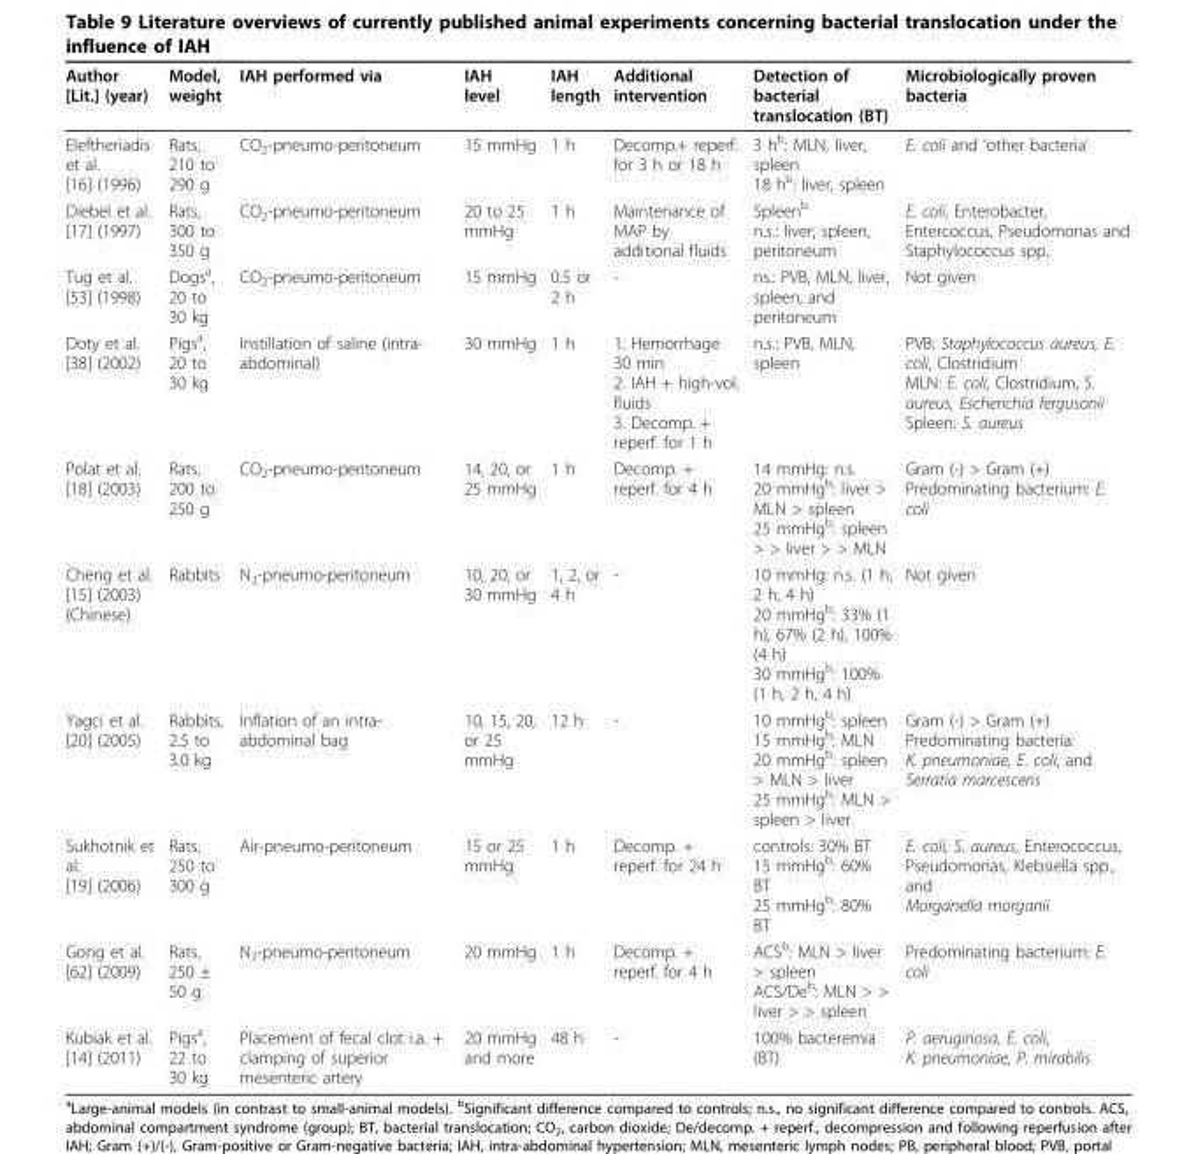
<table><thead><tr><td>Author [Lit.] (year)</td><td>Model, weight</td><td>IAH performed via</td><td>IAH level</td><td>IAH length</td><td>Additional intervention</td><td>Detection of bacterial translocation (BT)</td><td>Microbiologically proven bacteria</td></tr></thead><tbody><tr><td>Eleftheriadis et al. [16] (1996)</td><td>Rats, 210 to 290 g</td><td>CO<sub>2</sub>-pneumo-peritoneum</td><td>15 mmHg</td><td>1 h</td><td>Decomp.+ reperf. for 3 h or 18 h</td><td>3 h<sup>b</sup>: MLN, liver, spleen 18 h<sup>b</sup>: liver, spleen</td><td>E. coli and ‘other bacteria’</td></tr><tr><td>Diebel et al. [17] (1997)</td><td>Rats, 300 to 350 g</td><td>CO<sub>2</sub>-pneumo-peritoneum</td><td>20 to 25 mmHg</td><td>1 h</td><td>Maintenance of MAP by additional fluids</td><td>Spleen<sup>b</sup> n.s.: liver, spleen, peritoneum</td><td>E. coli, Enterobacter, Entercoccus, Pseudomonas and Staphylococcus spp.</td></tr><tr><td>Tug et al. [53] (1998)</td><td>Dogs<sup>a</sup>, 20 to 30 kg</td><td>CO<sub>2</sub>-pneumo-peritoneum</td><td>15 mmHg</td><td>0.5 or 2 h</td><td>-</td><td>ns.: PVB, MLN, liver, spleen, and peritoneum</td><td>Not given</td></tr><tr><td>Doty et al. [38] (2002)</td><td>Pigs<sup>a</sup>, 20 to 30 kg</td><td>Instillation of saline (intra- abdominal)</td><td>30 mmHg</td><td>1 h</td><td>1. Hemorrhage 30 min 2. IAH + high-vol. fluids 3. Decomp. + reperf. for 1 h</td><td>n.s.: PVB, MLN, spleen</td><td>PVB: Staphylococcus aureus, E. coli, Clostridium MLN: E. coli, Clostridium, S. aureus, Escherichia fergusonii Spleen: S. aureus</td></tr><tr><td>Polat et al. [18] (2003)</td><td>Rats, 200 to 250 g</td><td>CO<sub>2</sub>-pneumo-peritoneum</td><td>14, 20, or 25 mmHg</td><td>1 h</td><td>Decomp. + reperf. for 4 h</td><td>14 mmHg: n.s. 20 mmHg<sup>b</sup>: liver &gt; MLN &gt; spleen 25 mmHg<sup>b</sup>: spleen &gt; &gt; liver &gt; &gt; MLN</td><td>Gram (-) &gt; Gram (+) Predominating bacterium: E. coli</td></tr><tr><td>Cheng et al. [15] (2003) (Chinese)</td><td>Rabbits</td><td>N<sub>2</sub>-pneumo-peritoneum</td><td>10, 20, or 30 mmHg</td><td>1, 2, or 4 h</td><td>-</td><td>10 mmHg: n.s. (1 h, 2 h, 4 h) 20 mmHg<sup>b</sup>: 33% (1 h), 67% (2 h), 100% (4 h) 30 mmHg<sup>b</sup>: 100% (1 h, 2 h, 4 h)</td><td>Not given</td></tr><tr><td>Yagci et al. [20] (2005)</td><td>Rabbits, 2.5 to 3.0 kg</td><td>Inflation of an intra- abdominal bag</td><td>10, 15, 20, or 25 mmHg</td><td>12 h</td><td>-</td><td>10 mmHg<sup>b</sup>: spleen 15 mmHg<sup>b</sup>: MLN 20 mmHg<sup>b</sup>: spleen &gt; MLN &gt; liver 25 mmHg<sup>b</sup>: MLN &gt; spleen &gt; liver</td><td>Gram (-) &gt; Gram (+) Predominating bacteria: K. pneumoniae, E. coli, and Serratia marcescens</td></tr><tr><td>Sukhotnik et al. [19] (2006)</td><td>Rats, 250 to 300 g</td><td>Air-pneumo-peritoneum</td><td>15 or 25 mmHg</td><td>1 h</td><td>Decomp. + reperf. for 24 h</td><td>controls: 30% BT 15 mmHg<sup>b</sup>: 60% BT 25 mmHg<sup>b</sup>: 80% BT</td><td>E. coli, S. aureus, Enterococcus, Pseudomonas, Klebsiella spp., and Morganella morganii</td></tr><tr><td>Gong et al. [62] (2009)</td><td>Rats, 250 ± 50 g</td><td>N<sub>2</sub>-pneumo-peritoneum</td><td>20 mmHg</td><td>1 h</td><td>Decomp. + reperf. for 4 h</td><td>ACS<sup>b</sup>: MLN &gt; liver &gt; spleen ACS/De<sup>b</sup>: MLN &gt; &gt; liver &gt; &gt; spleen</td><td>Predominating bacterium: E. coli</td></tr><tr><td>Kubiak et al. [14] (2011)</td><td>Pigs<sup>a</sup>, 22 to 30 kg</td><td>Placement of fecal clot i.a. + clamping of superior mesenteric artery</td><td>20 mmHg and more</td><td>48 h</td><td>-</td><td>100% bacteremia (BT)</td><td>P. aeruginosa, E. coli, K. pneumoniae, P. mirabilis</td></tr></tbody></table>